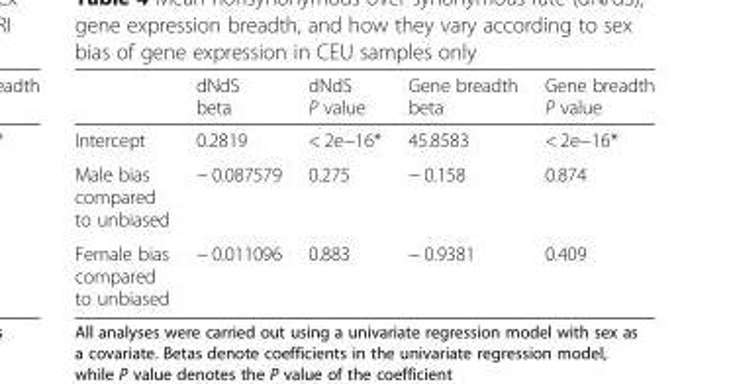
<table><thead><tr><td></td><td>dNdS beta</td><td>dNdS P value</td><td>Gene breadth beta</td><td>Gene breadth P value</td></tr></thead><tbody><tr><td>Intercept</td><td>0.2819</td><td>&lt; 2e−16*</td><td>45.8583</td><td>&lt; 2e−16*</td></tr><tr><td>Male bias compared to unbiased</td><td>− 0.087579</td><td>0.275</td><td>− 0.158</td><td>0.874</td></tr><tr><td>Female bias compared to unbiased</td><td>− 0.011096</td><td>0.883</td><td>− 0.9381</td><td>0.409</td></tr></tbody></table>